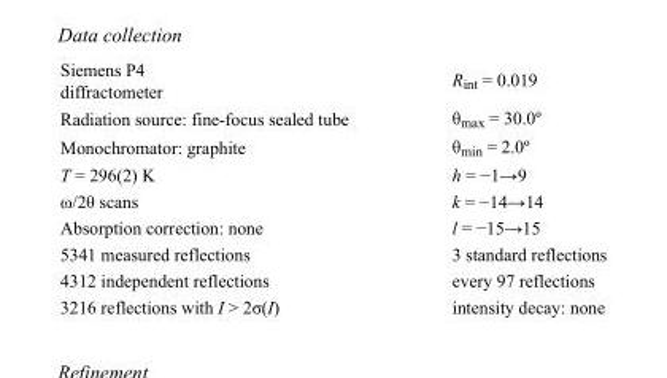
<table><tbody><tr><td>Siemens P4 diffractometer</td><td>R<sub>int</sub> = 0.019</td></tr><tr><td>Radiation source: fine-focus sealed tube</td><td>θ<sub>max</sub> = 30.0º</td></tr><tr><td>Monochromator: graphite</td><td>θ<sub>min</sub> = 2.0º</td></tr><tr><td>T = 296(2) K</td><td>h = −1→9</td></tr><tr><td>ω/2θ scans</td><td>k = −14→14</td></tr><tr><td>Absorption correction: none</td><td>l = −15→15</td></tr><tr><td>5341 measured reflections</td><td>3 standard reflections</td></tr><tr><td>4312 independent reflections</td><td>every 97 reflections</td></tr><tr><td>3216 reflections with I &gt; 2σ(I)</td><td>intensity decay: none</td></tr></tbody></table>